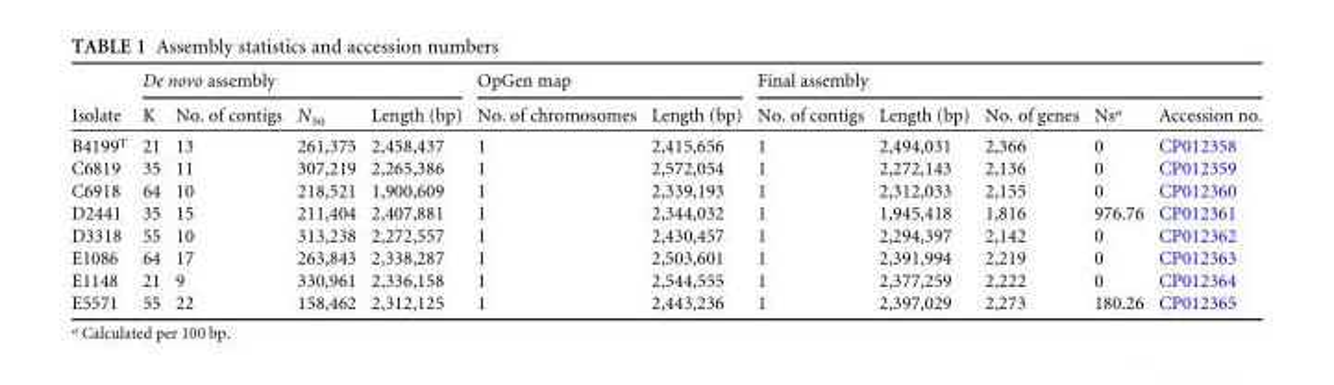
<table><thead><tr><td rowspan="2">Isolate</td><td colspan="4">De novo assembly</td><td colspan="2">OpGen map</td><td colspan="5">Final assembly</td></tr><tr><td>K</td><td>No. of contigs</td><td>N<sub>50</sub></td><td>Length (bp)</td><td>No. of chromosomes</td><td>Length (bp)</td><td>No. of contigs</td><td>Length (bp)</td><td>No. of genes</td><td>Ns<sup>a</sup></td><td>Accession no.</td></tr></thead><tbody><tr><td>B4199<sup>T</sup></td><td>21</td><td>13</td><td>261,375</td><td>2,458,437</td><td>1</td><td>2,415,656</td><td>1</td><td>2,494,031</td><td>2,366</td><td>0</td><td>CP012358</td></tr><tr><td>C6819</td><td>35</td><td>11</td><td>307,219</td><td>2,265,386</td><td>1</td><td>2,572,054</td><td>1</td><td>2,272,143</td><td>2,136</td><td>0</td><td>CP012359</td></tr><tr><td>C6918</td><td>64</td><td>10</td><td>218,521</td><td>1,900,609</td><td>1</td><td>2,339,193</td><td>1</td><td>2,312,033</td><td>2,155</td><td>0</td><td>CP012360</td></tr><tr><td>D2441</td><td>35</td><td>15</td><td>211,404</td><td>2,407,881</td><td>1</td><td>2,344,032</td><td>1</td><td>1,945,418</td><td>1,816</td><td>976.76</td><td>CP012361</td></tr><tr><td>D3318</td><td>55</td><td>10</td><td>313,238</td><td>2,272,557</td><td>1</td><td>2,430,457</td><td>1</td><td>2,294,397</td><td>2,142</td><td>0</td><td>CP012362</td></tr><tr><td>E1086</td><td>64</td><td>17</td><td>263,843</td><td>2,338,287</td><td>1</td><td>2,503,601</td><td>1</td><td>2,391,994</td><td>2,219</td><td>0</td><td>CP012363</td></tr><tr><td>E1148</td><td>21</td><td>9</td><td>330,961</td><td>2,336,158</td><td>1</td><td>2,544,555</td><td>1</td><td>2,377,259</td><td>2,222</td><td>0</td><td>CP012364</td></tr><tr><td>E5571</td><td>55</td><td>22</td><td>158,462</td><td>2,312,125</td><td>1</td><td>2,443,236</td><td>1</td><td>2,397,029</td><td>2,273</td><td>180.26</td><td>CP012365</td></tr></tbody></table>